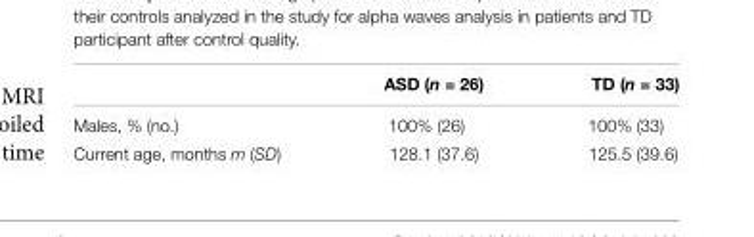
<table><thead><tr><td></td><td>ASD (n = 26)</td><td>TD (n = 33)</td></tr></thead><tbody><tr><td>Males, % (no.)</td><td>100% (26)</td><td>100% (33)</td></tr><tr><td>Current age, months m (SD)</td><td>128.1 (37.6)</td><td>125.5 (39.6)</td></tr></tbody></table>